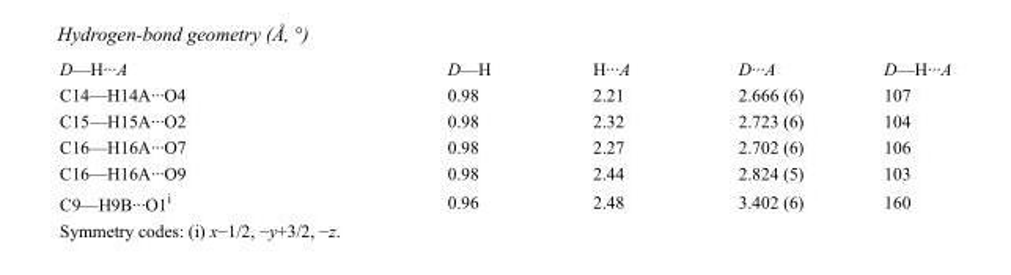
<table><tbody><tr><td>D—H···A</td><td>D—H</td><td>H···A</td><td>D···A</td><td>D—H···A</td></tr><tr><td>C14—H14A···O4</td><td>0.98</td><td>2.21</td><td>2.666 (6)</td><td>107</td></tr><tr><td>C15—H15A···O2</td><td>0.98</td><td>2.32</td><td>2.723 (6)</td><td>104</td></tr><tr><td>C16—H16A···O7</td><td>0.98</td><td>2.27</td><td>2.702 (6)</td><td>106</td></tr><tr><td>C16—H16A···O9</td><td>0.98</td><td>2.44</td><td>2.824 (5)</td><td>103</td></tr><tr><td>C9—H9B···O1<sup>i</sup></td><td>0.96</td><td>2.48</td><td>3.402 (6)</td><td>160</td></tr></tbody></table>